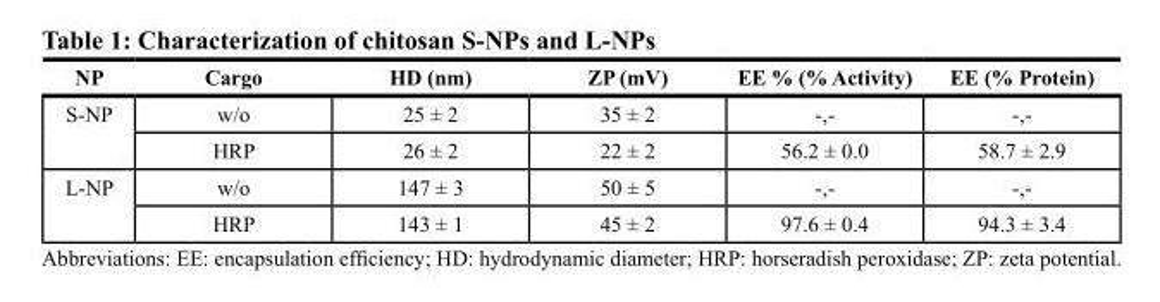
<table><thead><tr><td>NP</td><td>Cargo</td><td>HD (nm)</td><td>ZP (mV)</td><td>EE % (% Activity)</td><td>EE (% Protein)</td></tr></thead><tbody><tr><td rowspan="2">S-NP</td><td>w/o</td><td>25 ± 2</td><td>35 ± 2</td><td>-,-</td><td>-,-</td></tr><tr><td>HRP</td><td>26 ± 2</td><td>22 ± 2</td><td>56.2 ± 0.0</td><td>58.7 ± 2.9</td></tr><tr><td rowspan="2">L-NP</td><td>w/o</td><td>147 ± 3</td><td>50 ± 5</td><td>-,-</td><td>-,-</td></tr><tr><td>HRP</td><td>143 ± 1</td><td>45 ± 2</td><td>97.6 ± 0.4</td><td>94.3 ± 3.4</td></tr></tbody></table>